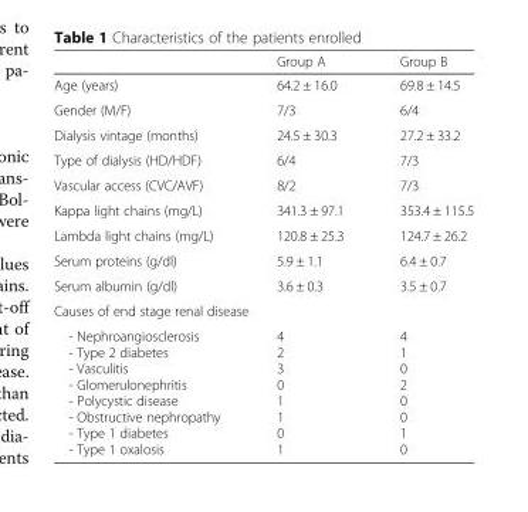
<table><thead><tr><td></td><td>Group A</td><td>Group B</td></tr></thead><tbody><tr><td>Age (years)</td><td>64.2 ± 16.0</td><td>69.8 ± 14.5</td></tr><tr><td>Gender (M/F)</td><td>7/3</td><td>6/4</td></tr><tr><td>Dialysis vintage (months)</td><td>24.5 ± 30.3</td><td>27.2 ± 33.2</td></tr><tr><td>Type of dialysis (HD/HDF)</td><td>6/4</td><td>7/3</td></tr><tr><td>Vascular access (CVC/AVF)</td><td>8/2</td><td>7/3</td></tr><tr><td>Kappa light chains (mg/L)</td><td>341.3 ± 97.1</td><td>353.4 ± 115.5</td></tr><tr><td>Lambda light chains (mg/L)</td><td>120.8 ± 25.3</td><td>124.7 ± 26.2</td></tr><tr><td>Serum proteins (g/dl)</td><td>5.9 ± 1.1</td><td>6.4 ± 0.7</td></tr><tr><td>Serum albumin (g/dl)</td><td>3.6 ± 0.3</td><td>3.5 ± 0.7</td></tr><tr><td colspan="3">Causes of end stage renal disease</td></tr><tr><td>- Nephroangiosclerosis - Type 2 diabetes - Vasculitis - Glomerulonephritis - Polycystic disease - Obstructive nephropathy - Type 1 diabetes - Type 1 oxalosis</td><td>4 2 3 0 1 1 0 1</td><td>4 1 0 2 0 0 1 0</td></tr></tbody></table>